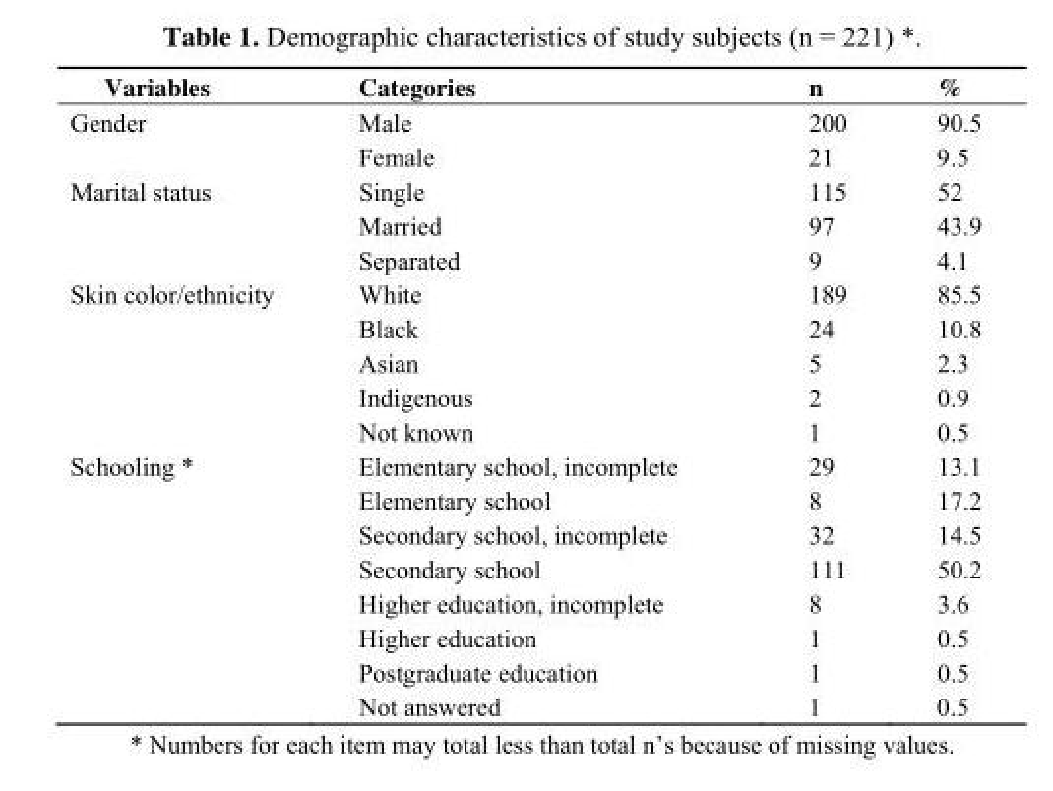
<table><thead><tr><td>Variables</td><td>Categories</td><td>n</td><td>%</td></tr></thead><tbody><tr><td rowspan="2">Gender</td><td>Male</td><td>200</td><td>90.5</td></tr><tr><td>Female</td><td>21</td><td>9.5</td></tr><tr><td rowspan="3">Marital status</td><td>Single</td><td>115</td><td>52</td></tr><tr><td>Married</td><td>97</td><td>43.9</td></tr><tr><td>Separated</td><td>9</td><td>4.1</td></tr><tr><td rowspan="5">Skin color/ethnicity</td><td>White</td><td>189</td><td>85.5</td></tr><tr><td>Black</td><td>24</td><td>10.8</td></tr><tr><td>Asian</td><td>5</td><td>2.3</td></tr><tr><td>Indigenous</td><td>2</td><td>0.9</td></tr><tr><td>Not known</td><td>1</td><td>0.5</td></tr><tr><td rowspan="8">Schooling *</td><td>Elementary school, incomplete</td><td>29</td><td>13.1</td></tr><tr><td>Elementary school</td><td>8</td><td>17.2</td></tr><tr><td>Secondary school, incomplete</td><td>32</td><td>14.5</td></tr><tr><td>Secondary school</td><td>111</td><td>50.2</td></tr><tr><td>Higher education, incomplete</td><td>8</td><td>3.6</td></tr><tr><td>Higher education</td><td>1</td><td>0.5</td></tr><tr><td>Postgraduate education</td><td>1</td><td>0.5</td></tr><tr><td>Not answered</td><td>1</td><td>0.5</td></tr></tbody></table>